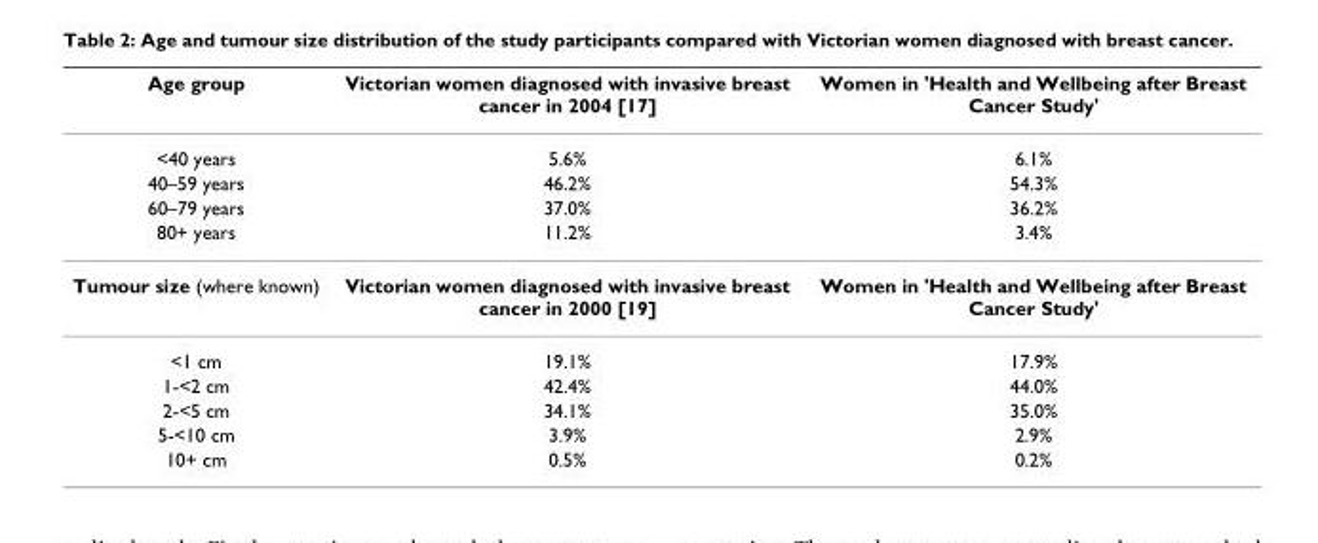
<table><thead><tr><td>Age group</td><td>Victorian women diagnosed with invasive breast cancer in 2004 [17]</td><td>Women in &#x27;Health and Wellbeing after Breast Cancer Study&#x27;</td></tr></thead><tbody><tr><td>&lt;40 years</td><td>5.6%</td><td>6.1%</td></tr><tr><td>40–59 years</td><td>46.2%</td><td>54.3%</td></tr><tr><td>60–79 years</td><td>37.0%</td><td>36.2%</td></tr><tr><td>80+ years</td><td>11.2%</td><td>3.4%</td></tr><tr><td>Tumour size (where known)</td><td>Victorian women diagnosed with invasive breast cancer in 2000 [19]</td><td>Women in &#x27;Health and Wellbeing after Breast Cancer Study&#x27;</td></tr><tr><td>&lt;1 cm</td><td>19.1%</td><td>17.9%</td></tr><tr><td>1-&lt;2 cm</td><td>42.4%</td><td>44.0%</td></tr><tr><td>2-&lt;5 cm</td><td>34.1%</td><td>35.0%</td></tr><tr><td>5-&lt;10 cm</td><td>3.9%</td><td>2.9%</td></tr><tr><td>10+ cm</td><td>0.5%</td><td>0.2%</td></tr></tbody></table>